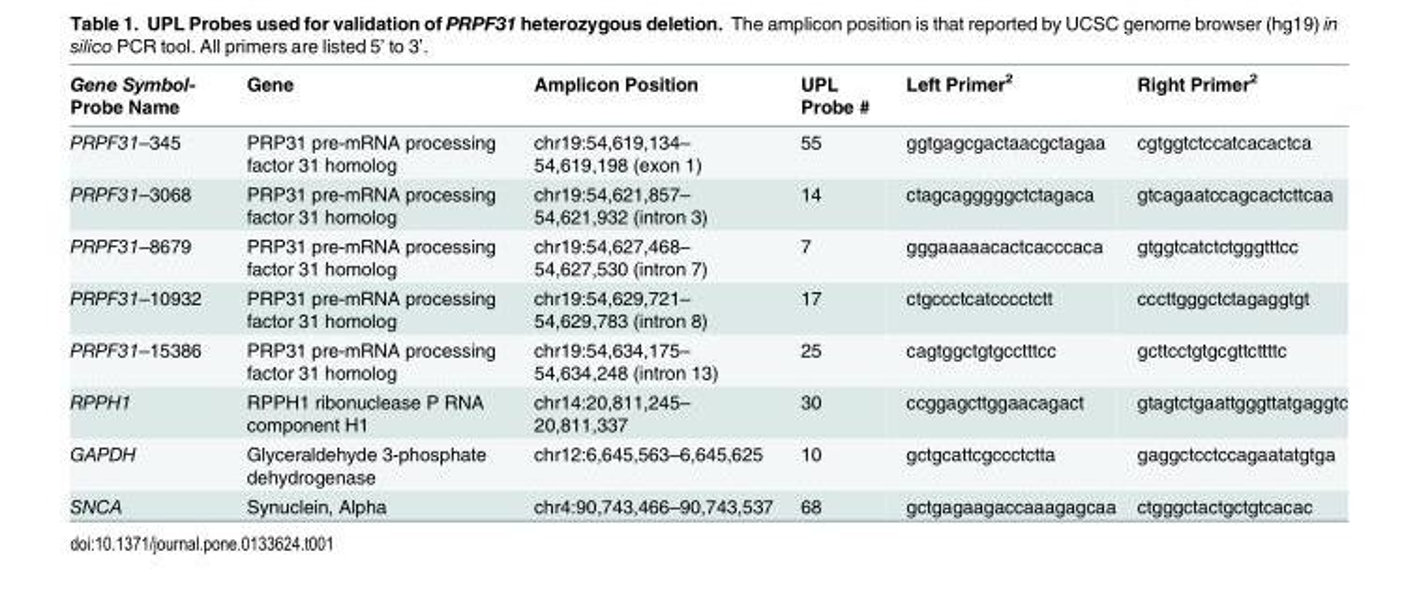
<table><thead><tr><td>Gene Symbol- Probe Name</td><td>Gene</td><td>Amplicon Position</td><td>UPL Probe #</td><td>Left Primer<sup>2</sup></td><td>Right Primer<sup>2</sup></td></tr></thead><tbody><tr><td>PRPF31–345</td><td>PRP31 pre-mRNA processing factor 31 homolog</td><td>chr19:54,619,134– 54,619,198 (exon 1)</td><td>55</td><td>ggtgagcgactaacgctagaa</td><td>cgtggtctccatcacactca</td></tr><tr><td>PRPF31–3068</td><td>PRP31 pre-mRNA processing factor 31 homolog</td><td>chr19:54,621,857– 54,621,932 (intron 3)</td><td>14</td><td>ctagcagggggctctagaca</td><td>gtcagaatccagcactcttcaa</td></tr><tr><td>PRPF31–8679</td><td>PRP31 pre-mRNA processing factor 31 homolog</td><td>chr19:54,627,468– 54,627,530 (intron 7)</td><td>7</td><td>gggaaaaacactcacccaca</td><td>gtggtcatctctgggtttcc</td></tr><tr><td>PRPF31–10932</td><td>PRP31 pre-mRNA processing factor 31 homolog</td><td>chr19:54,629,721– 54,629,783 (intron 8)</td><td>17</td><td>ctgccctcatcccctctt</td><td>cccttgggctctagaggtgt</td></tr><tr><td>PRPF31–15386</td><td>PRP31 pre-mRNA processing factor 31 homolog</td><td>chr19:54,634,175– 54,634,248 (intron 13)</td><td>25</td><td>cagtggctgtgcctttcc</td><td>gcttcctgtgcgttcttttc</td></tr><tr><td>RPPH1</td><td>RPPH1 ribonuclease P RNA component H1</td><td>chr14:20,811,245– 20,811,337</td><td>30</td><td>ccggagcttggaacagact</td><td>gtagtctgaattgggttatgaggtc</td></tr><tr><td>GAPDH</td><td>Glyceraldehyde 3-phosphate dehydrogenase</td><td>chr12:6,645,563–6,645,625</td><td>10</td><td>gctgcattcgccctctta</td><td>gaggctcctccagaatatgtga</td></tr><tr><td>SNCA</td><td>Synuclein, Alpha</td><td>chr4:90,743,466–90,743,537</td><td>68</td><td>gctgagaagaccaaagagcaa</td><td>ctgggctactgctgtcacac</td></tr></tbody></table>